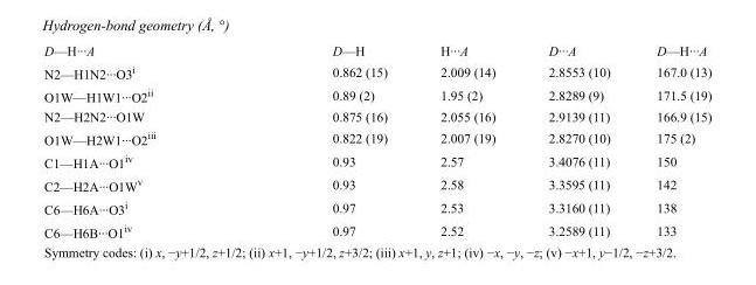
<table><tbody><tr><td>D—H···A</td><td>D—H</td><td>H···A</td><td>D···A</td><td>D—H···A</td></tr><tr><td>N2—H1N2···O3<sup>i</sup></td><td>0.862 (15)</td><td>2.009 (14)</td><td>2.8553 (10)</td><td>167.0 (13)</td></tr><tr><td>O1W—H1W1···O2<sup>ii</sup></td><td>0.89 (2)</td><td>1.95 (2)</td><td>2.8289 (9)</td><td>171.5 (19)</td></tr><tr><td>N2—H2N2···O1W</td><td>0.875 (16)</td><td>2.055 (16)</td><td>2.9139 (11)</td><td>166.9 (15)</td></tr><tr><td>O1W—H2W1···O2<sup>iii</sup></td><td>0.822 (19)</td><td>2.007 (19)</td><td>2.8270 (10)</td><td>175 (2)</td></tr><tr><td>C1—H1A···O1<sup>iv</sup></td><td>0.93</td><td>2.57</td><td>3.4076 (11)</td><td>150</td></tr><tr><td>C2—H2A···O1W<sup>v</sup></td><td>0.93</td><td>2.58</td><td>3.3595 (11)</td><td>142</td></tr><tr><td>C6—H6A···O3<sup>i</sup></td><td>0.97</td><td>2.53</td><td>3.3160 (11)</td><td>138</td></tr><tr><td>C6—H6B···O1<sup>iv</sup></td><td>0.97</td><td>2.52</td><td>3.2589 (11)</td><td>133</td></tr></tbody></table>